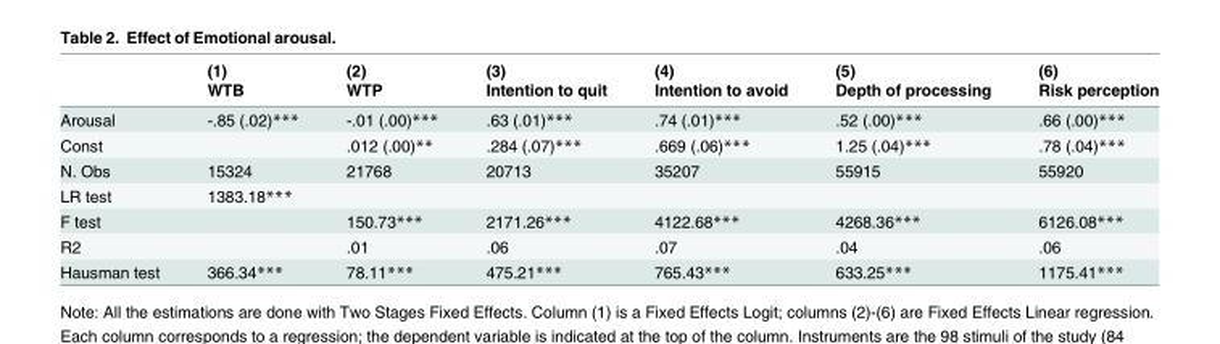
<table><thead><tr><td rowspan="2"></td><td rowspan="2">(1) WTB</td><td rowspan="2">(2) WTP</td><td rowspan="2">(3) Intention to quit</td><td rowspan="2">(4) Intention to avoid</td><td rowspan="2">(5) Depth of processing</td><td rowspan="2">(6) Risk perception</td></tr><tr></tr></thead><tbody><tr><td>Arousal</td><td>-.85 (.02)***</td><td>-.01 (.00)***</td><td>.63 (.01)***</td><td>.74 (.01)***</td><td>.52 (.00)***</td><td>.66 (.00)***</td></tr><tr><td>Const</td><td></td><td>.012 (.00)**</td><td>.284 (.07)***</td><td>.669 (.06)***</td><td>1.25 (.04)***</td><td>.78 (.04)***</td></tr><tr><td>N. Obs</td><td>15324</td><td>21768</td><td>20713</td><td>35207</td><td>55915</td><td>55920</td></tr><tr><td>LR test</td><td>1383.18***</td><td></td><td></td><td></td><td></td><td></td></tr><tr><td>F test</td><td></td><td>150.73***</td><td>2171.26***</td><td>4122.68***</td><td>4268.36***</td><td>6126.08***</td></tr><tr><td>R2</td><td></td><td>.01</td><td>.06</td><td>.07</td><td>.04</td><td>.06</td></tr><tr><td>Hausman test</td><td>366.34***</td><td>78.11***</td><td>475.21***</td><td>765.43***</td><td>633.25***</td><td>1175.41***</td></tr></tbody></table>